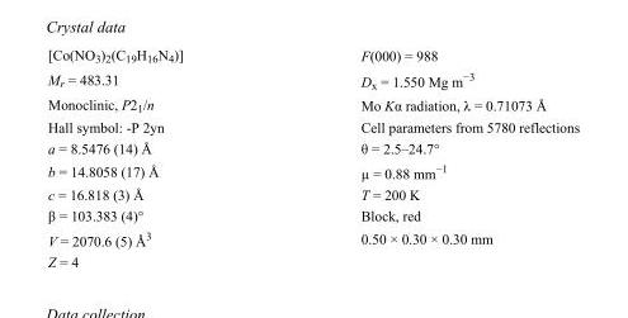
<table><tbody><tr><td>[Co(NO<sub>3</sub>)<sub>2</sub>(C<sub>19</sub>H<sub>16</sub>N<sub>4</sub>)]</td><td>F(000) = 988</td></tr><tr><td>M<sub>r</sub> = 483.31</td><td>D<sub>x</sub> = 1.550 Mg m<sup>−3</sup></td></tr><tr><td>Monoclinic, P2<sub>1</sub>/n</td><td>Mo Kα radiation, λ = 0.71073 Å</td></tr><tr><td>Hall symbol: -P 2yn</td><td>Cell parameters from 5780 reflections</td></tr><tr><td>a = 8.5476 (14) Å</td><td>θ = 2.5–24.7°</td></tr><tr><td>b = 14.8058 (17) Å</td><td>µ = 0.88 mm<sup>−1</sup></td></tr><tr><td>c = 16.818 (3) Å</td><td>T = 200 K</td></tr><tr><td>β = 103.383 (4)°</td><td>Block, red</td></tr><tr><td>V = 2070.6 (5) Å<sup>3</sup></td><td>0.50 × 0.30 × 0.30 mm</td></tr><tr><td>Z = 4</td><td></td></tr></tbody></table>